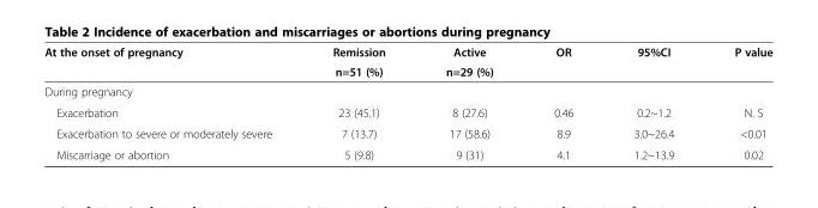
<table><thead><tr><td rowspan="2">At the onset of pregnancy</td><td rowspan="2">Remission n=51 (%)</td><td rowspan="2">Active n=29 (%)</td><td rowspan="2">OR</td><td rowspan="2">95%CI</td><td rowspan="2">P value</td></tr><tr></tr></thead><tbody><tr><td colspan="6">During pregnancy</td></tr><tr><td>Exacerbation</td><td>23 (45.1)</td><td>8 (27.6)</td><td>0.46</td><td>0.2~1.2</td><td>N. S</td></tr><tr><td>Exacerbation to severe or moderately severe</td><td>7 (13.7)</td><td>17 (58.6)</td><td>8.9</td><td>3.0~26.4</td><td>&lt;0.01</td></tr><tr><td>Miscarriage or abortion</td><td>5 (9.8)</td><td>9 (31)</td><td>4.1</td><td>1.2~13.9</td><td>0.02</td></tr></tbody></table>